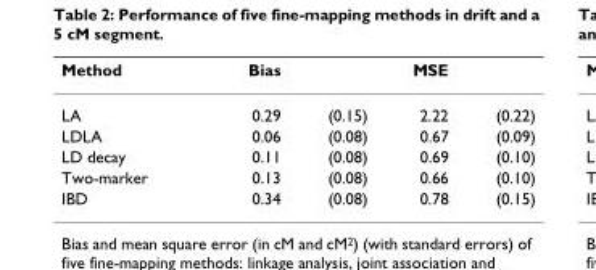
<table><thead><tr><td>Method</td><td>Bias</td><td></td><td>MSE</td><td></td></tr></thead><tbody><tr><td>LA</td><td>0.29</td><td>(0.15)</td><td>2.22</td><td>(0.22)</td></tr><tr><td>LDLA</td><td>0.06</td><td>(0.08)</td><td>0.67</td><td>(0.09)</td></tr><tr><td>LD decay</td><td>0.11</td><td>(0.08)</td><td>0.69</td><td>(0.10)</td></tr><tr><td>Two-marker</td><td>0.13</td><td>(0.08)</td><td>0.66</td><td>(0.10)</td></tr><tr><td>IBD</td><td>0.34</td><td>(0.08)</td><td>0.78</td><td>(0.15)</td></tr></tbody></table>